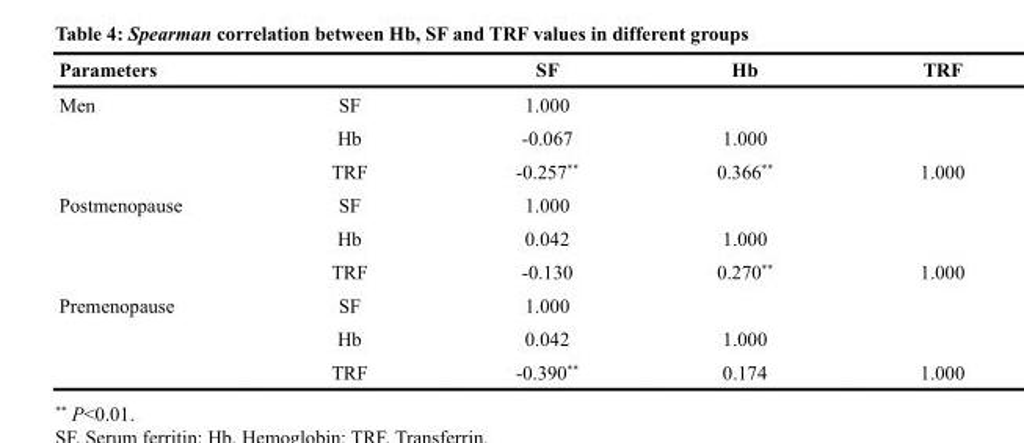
<table><thead><tr><td>Parameters</td><td></td><td>SF</td><td>Hb</td><td>TRF</td></tr></thead><tbody><tr><td rowspan="3">Men</td><td>SF</td><td>1.000</td><td></td><td></td></tr><tr><td>Hb</td><td>-0.067</td><td>1.000</td><td></td></tr><tr><td>TRF</td><td>-0.257**</td><td>0.366**</td><td>1.000</td></tr><tr><td rowspan="3">Postmenopause</td><td>SF</td><td>1.000</td><td></td><td></td></tr><tr><td>Hb</td><td>0.042</td><td>1.000</td><td></td></tr><tr><td>TRF</td><td>-0.130</td><td>0.270**</td><td>1.000</td></tr><tr><td rowspan="3">Premenopause</td><td>SF</td><td>1.000</td><td></td><td></td></tr><tr><td>Hb</td><td>0.042</td><td>1.000</td><td></td></tr><tr><td>TRF</td><td>-0.390**</td><td>0.174</td><td>1.000</td></tr></tbody></table>